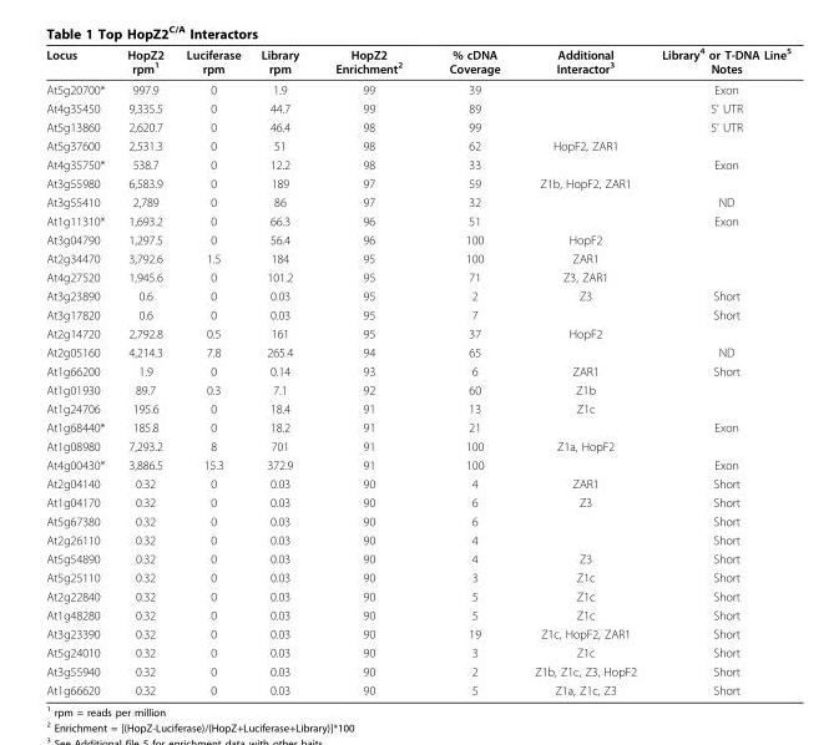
<table><thead><tr><td>Locus</td><td>HopZ2 rpm<sup>1</sup></td><td>Luciferase rpm</td><td>Library rpm</td><td>HopZ2 Enrichment<sup>2</sup></td><td>% cDNA Coverage</td><td>Additional Interactor<sup>3</sup></td><td>Library<sup>4</sup> or T-DNA Line<sup>5</sup> Notes</td></tr></thead><tbody><tr><td>At5g20700*</td><td>997.9</td><td>0</td><td>1.9</td><td>99</td><td>39</td><td></td><td>Exon</td></tr><tr><td>At4g35450</td><td>9,335.5</td><td>0</td><td>44.7</td><td>99</td><td>89</td><td></td><td>5’ UTR</td></tr><tr><td>At5g13860</td><td>2,620.7</td><td>0</td><td>46.4</td><td>98</td><td>99</td><td></td><td>5’ UTR</td></tr><tr><td>At5g37600</td><td>2,531.3</td><td>0</td><td>51</td><td>98</td><td>62</td><td>HopF2, ZAR1</td><td></td></tr><tr><td>At4g35750*</td><td>538.7</td><td>0</td><td>12.2</td><td>98</td><td>33</td><td></td><td>Exon</td></tr><tr><td>At3g55980</td><td>6,583.9</td><td>0</td><td>189</td><td>97</td><td>59</td><td>Z1b, HopF2, ZAR1</td><td></td></tr><tr><td>At3g55410</td><td>2,789</td><td>0</td><td>86</td><td>97</td><td>32</td><td></td><td>ND</td></tr><tr><td>At1g11310*</td><td>1,693.2</td><td>0</td><td>66.3</td><td>96</td><td>51</td><td></td><td>Exon</td></tr><tr><td>At3g04790</td><td>1,297.5</td><td>0</td><td>56.4</td><td>96</td><td>100</td><td>HopF2</td><td></td></tr><tr><td>At2g34470</td><td>3,792.6</td><td>1.5</td><td>184</td><td>95</td><td>100</td><td>ZAR1</td><td></td></tr><tr><td>At4g27520</td><td>1,945.6</td><td>0</td><td>101.2</td><td>95</td><td>71</td><td>Z3, ZAR1</td><td></td></tr><tr><td>At3g23890</td><td>0.6</td><td>0</td><td>0.03</td><td>95</td><td>2</td><td>Z3</td><td>Short</td></tr><tr><td>At3g17820</td><td>0.6</td><td>0</td><td>0.03</td><td>95</td><td>7</td><td></td><td>Short</td></tr><tr><td>At2g14720</td><td>2,792.8</td><td>0.5</td><td>161</td><td>95</td><td>37</td><td>HopF2</td><td></td></tr><tr><td>At2g05160</td><td>4,214.3</td><td>7.8</td><td>265.4</td><td>94</td><td>65</td><td></td><td>ND</td></tr><tr><td>At1g66200</td><td>1.9</td><td>0</td><td>0.14</td><td>93</td><td>6</td><td>ZAR1</td><td>Short</td></tr><tr><td>At1g01930</td><td>89.7</td><td>0.3</td><td>7.1</td><td>92</td><td>60</td><td>Z1b</td><td></td></tr><tr><td>At1g24706</td><td>195.6</td><td>0</td><td>18.4</td><td>91</td><td>13</td><td>Z1c</td><td></td></tr><tr><td>At1g68440*</td><td>185.8</td><td>0</td><td>18.2</td><td>91</td><td>21</td><td></td><td>Exon</td></tr><tr><td>At1g08980</td><td>7,293.2</td><td>8</td><td>701</td><td>91</td><td>100</td><td>Z1a, HopF2</td><td></td></tr><tr><td>At4g00430*</td><td>3,886.5</td><td>15.3</td><td>372.9</td><td>91</td><td>100</td><td></td><td>Exon</td></tr><tr><td>At2g04140</td><td>0.32</td><td>0</td><td>0.03</td><td>90</td><td>4</td><td>ZAR1</td><td>Short</td></tr><tr><td>At1g04170</td><td>0.32</td><td>0</td><td>0.03</td><td>90</td><td>6</td><td>Z3</td><td>Short</td></tr><tr><td>At5g67380</td><td>0.32</td><td>0</td><td>0.03</td><td>90</td><td>6</td><td></td><td>Short</td></tr><tr><td>At2g26110</td><td>0.32</td><td>0</td><td>0.03</td><td>90</td><td>4</td><td></td><td>Short</td></tr><tr><td>At5g54890</td><td>0.32</td><td>0</td><td>0.03</td><td>90</td><td>4</td><td>Z3</td><td>Short</td></tr><tr><td>At5g25110</td><td>0.32</td><td>0</td><td>0.03</td><td>90</td><td>3</td><td>Z1c</td><td>Short</td></tr><tr><td>At2g22840</td><td>0.32</td><td>0</td><td>0.03</td><td>90</td><td>5</td><td>Z1c</td><td>Short</td></tr><tr><td>At1g48280</td><td>0.32</td><td>0</td><td>0.03</td><td>90</td><td>5</td><td>Z1c</td><td>Short</td></tr><tr><td>At3g23390</td><td>0.32</td><td>0</td><td>0.03</td><td>90</td><td>19</td><td>Z1c, HopF2, ZAR1</td><td>Short</td></tr><tr><td>At5g24010</td><td>0.32</td><td>0</td><td>0.03</td><td>90</td><td>3</td><td>Z1c</td><td>Short</td></tr><tr><td>At3g55940</td><td>0.32</td><td>0</td><td>0.03</td><td>90</td><td>2</td><td>Z1b, Z1c, Z3, HopF2</td><td>Short</td></tr><tr><td>At1g66620</td><td>0.32</td><td>0</td><td>0.03</td><td>90</td><td>5</td><td>Z1a, Z1c, Z3</td><td>Short</td></tr></tbody></table>